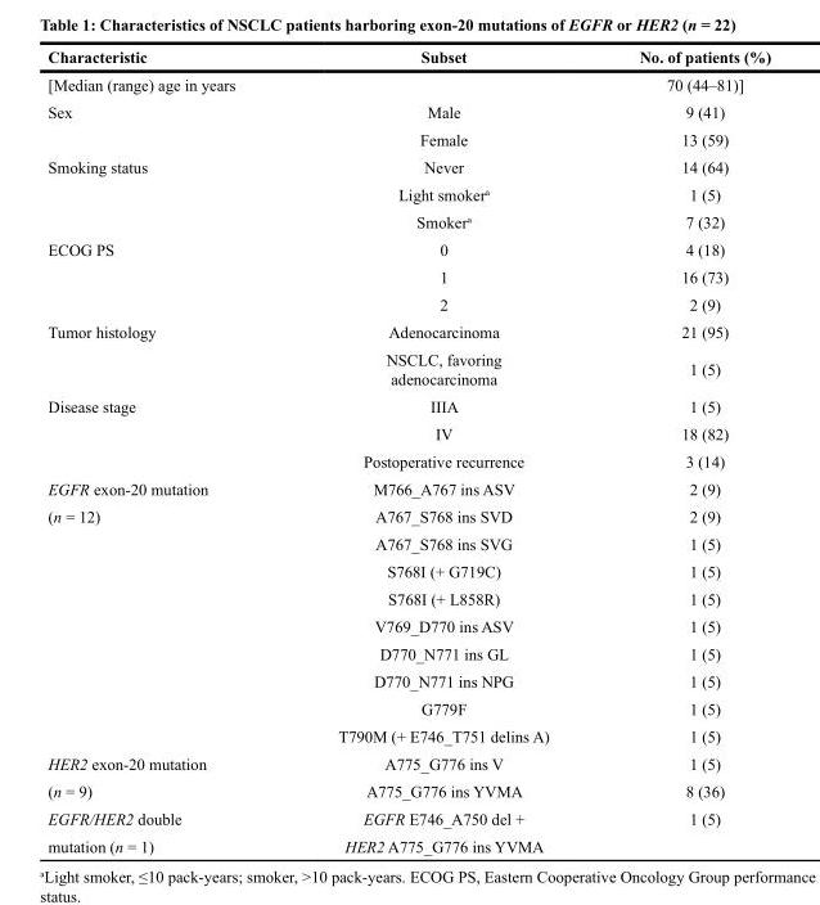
<table><thead><tr><td>Characteristic</td><td>Subset</td><td>No. of patients (%)</td></tr></thead><tbody><tr><td colspan="2">[Median (range) age in years</td><td>70 (44–81)]</td></tr><tr><td rowspan="2">Sex</td><td>Male</td><td>9 (41)</td></tr><tr><td>Female</td><td>13 (59)</td></tr><tr><td rowspan="3">Smoking status</td><td>Never</td><td>14 (64)</td></tr><tr><td>Light smoker<sup>a</sup></td><td>1 (5)</td></tr><tr><td>Smoker<sup>a</sup></td><td>7 (32)</td></tr><tr><td rowspan="3">ECOG PS</td><td>0</td><td>4 (18)</td></tr><tr><td>1</td><td>16 (73)</td></tr><tr><td>2</td><td>2 (9)</td></tr><tr><td rowspan="2">Tumor histology</td><td>Adenocarcinoma</td><td>21 (95)</td></tr><tr><td>NSCLC, favoring adenocarcinoma</td><td>1 (5)</td></tr><tr><td rowspan="3">Disease stage</td><td>IIIA</td><td>1 (5)</td></tr><tr><td>IV</td><td>18 (82)</td></tr><tr><td>Postoperative recurrence</td><td>3 (14)</td></tr><tr><td>EGFR exon-20 mutation</td><td>M766_A767 ins ASV</td><td>2 (9)</td></tr><tr><td rowspan="9">(n = 12)</td><td>A767_S768 ins SVD</td><td>2 (9)</td></tr><tr><td>A767_S768 ins SVG</td><td>1 (5)</td></tr><tr><td>S768I (+ G719C)</td><td>1 (5)</td></tr><tr><td>S768I (+ L858R)</td><td>1 (5)</td></tr><tr><td>V769_D770 ins ASV</td><td>1 (5)</td></tr><tr><td>D770_N771 ins GL</td><td>1 (5)</td></tr><tr><td>D770_N771 ins NPG</td><td>1 (5)</td></tr><tr><td>G779F</td><td>1 (5)</td></tr><tr><td>T790M (+ E746_T751 delins A)</td><td>1 (5)</td></tr><tr><td>HER2 exon-20 mutation</td><td>A775_G776 ins V</td><td>1 (5)</td></tr><tr><td>(n = 9)</td><td>A775_G776 ins YVMA</td><td>8 (36)</td></tr><tr><td>EGFR/HER2 double</td><td>EGFR E746_A750 del +</td><td>1 (5)</td></tr><tr><td>mutation (n = 1)</td><td>HER2 A775_G776 ins YVMA</td><td></td></tr></tbody></table>